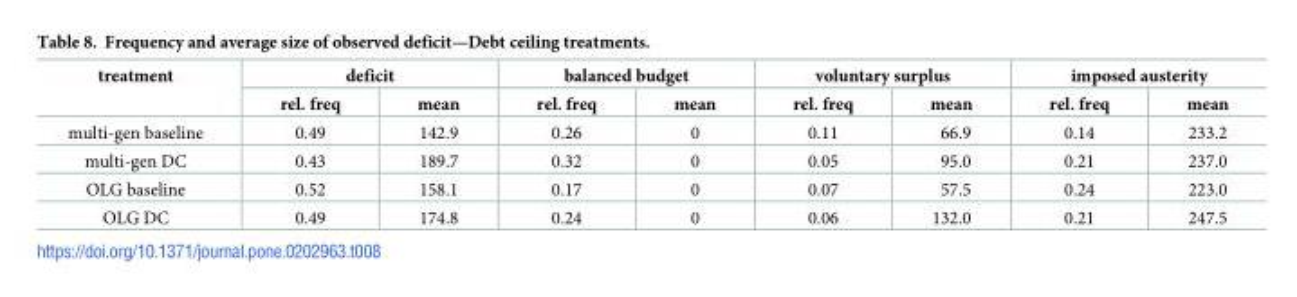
<table><thead><tr><td rowspan="2">treatment</td><td colspan="2">deficit</td><td colspan="2">balanced budget</td><td colspan="2">voluntary surplus</td><td colspan="2">imposed austerity</td></tr><tr><td>rel. freq</td><td>mean</td><td>rel. freq</td><td>mean</td><td>rel. freq</td><td>mean</td><td>rel. freq</td><td>mean</td></tr></thead><tbody><tr><td>multi-gen baseline</td><td>0.49</td><td>142.9</td><td>0.26</td><td>0</td><td>0.11</td><td>66.9</td><td>0.14</td><td>233.2</td></tr><tr><td>multi-gen DC</td><td>0.43</td><td>189.7</td><td>0.32</td><td>0</td><td>0.05</td><td>95.0</td><td>0.21</td><td>237.0</td></tr><tr><td>OLG baseline</td><td>0.52</td><td>158.1</td><td>0.17</td><td>0</td><td>0.07</td><td>57.5</td><td>0.24</td><td>223.0</td></tr><tr><td>OLG DC</td><td>0.49</td><td>174.8</td><td>0.24</td><td>0</td><td>0.06</td><td>132.0</td><td>0.21</td><td>247.5</td></tr></tbody></table>